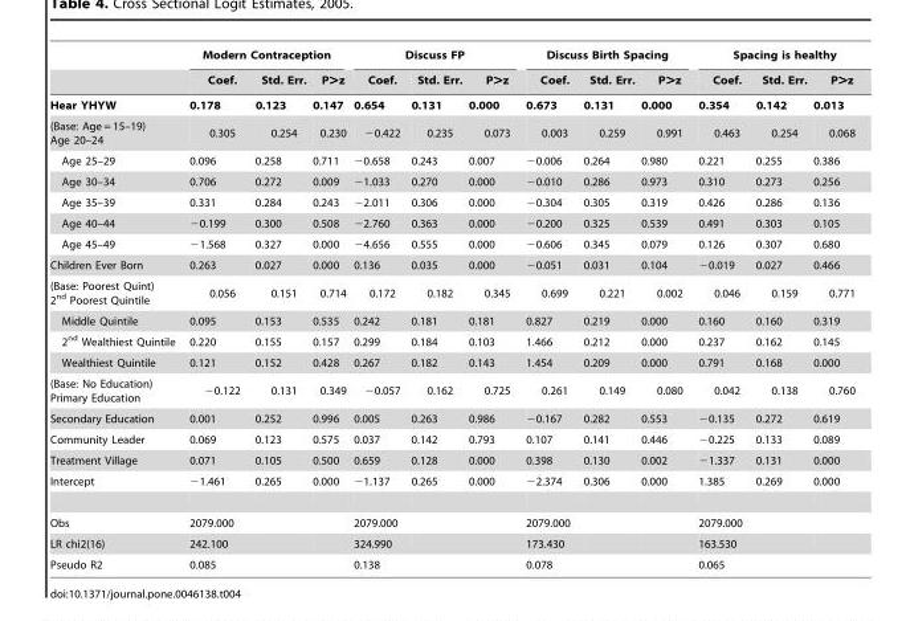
<table><thead><tr><td rowspan="2"></td><td colspan="3">Modern Contraception</td><td colspan="3">Discuss FP</td><td colspan="3">Discuss Birth Spacing</td><td colspan="3">Spacing is healthy</td></tr><tr><td>Coef.</td><td>Std. Err.</td><td>P&gt;z</td><td>Coef.</td><td>Std. Err.</td><td>P&gt;z</td><td>Coef.</td><td>Std. Err.</td><td>P&gt;z</td><td>Coef.</td><td>Std. Err.</td><td>P&gt;z</td></tr></thead><tbody><tr><td>Hear YHYW</td><td>0.178</td><td>0.123</td><td>0.147</td><td>0.654</td><td>0.131</td><td>0.000</td><td>0.673</td><td>0.131</td><td>0.000</td><td>0.354</td><td>0.142</td><td>0.013</td></tr><tr><td>(Base: Age = 15–19) Age 20–24</td><td>0.305</td><td>0.254</td><td>0.230</td><td>−0.422</td><td>0.235</td><td>0.073</td><td>0.003</td><td>0.259</td><td>0.991</td><td>0.463</td><td>0.254</td><td>0.068</td></tr><tr><td>Age 25–29</td><td>0.096</td><td>0.258</td><td>0.711</td><td>−0.658</td><td>0.243</td><td>0.007</td><td>−0.006</td><td>0.264</td><td>0.980</td><td>0.221</td><td>0.255</td><td>0.386</td></tr><tr><td>Age 30–34</td><td>0.706</td><td>0.272</td><td>0.009</td><td>−1.033</td><td>0.270</td><td>0.000</td><td>−0.010</td><td>0.286</td><td>0.973</td><td>0.310</td><td>0.273</td><td>0.256</td></tr><tr><td>Age 35–39</td><td>0.331</td><td>0.284</td><td>0.243</td><td>−2.011</td><td>0.306</td><td>0.000</td><td>−0.304</td><td>0.305</td><td>0.319</td><td>0.426</td><td>0.286</td><td>0.136</td></tr><tr><td>Age 40–44</td><td>−0.199</td><td>0.300</td><td>0.508</td><td>−2.760</td><td>0.363</td><td>0.000</td><td>−0.200</td><td>0.325</td><td>0.539</td><td>0.491</td><td>0.303</td><td>0.105</td></tr><tr><td>Age 45–49</td><td>−1.568</td><td>0.327</td><td>0.000</td><td>−4.656</td><td>0.555</td><td>0.000</td><td>−0.606</td><td>0.345</td><td>0.079</td><td>0.126</td><td>0.307</td><td>0.680</td></tr><tr><td>Children Ever Born</td><td>0.263</td><td>0.027</td><td>0.000</td><td>0.136</td><td>0.035</td><td>0.000</td><td>−0.051</td><td>0.031</td><td>0.104</td><td>−0.019</td><td>0.027</td><td>0.466</td></tr><tr><td>(Base: Poorest Quint) 2<sup>nd</sup> Poorest Quintile</td><td>0.056</td><td>0.151</td><td>0.714</td><td>0.172</td><td>0.182</td><td>0.345</td><td>0.699</td><td>0.221</td><td>0.002</td><td>0.046</td><td>0.159</td><td>0.771</td></tr><tr><td>Middle Quintile</td><td>0.095</td><td>0.153</td><td>0.535</td><td>0.242</td><td>0.181</td><td>0.181</td><td>0.827</td><td>0.219</td><td>0.000</td><td>0.160</td><td>0.160</td><td>0.319</td></tr><tr><td>2<sup>nd</sup> Wealthiest Quintile</td><td>0.220</td><td>0.155</td><td>0.157</td><td>0.299</td><td>0.184</td><td>0.103</td><td>1.466</td><td>0.212</td><td>0.000</td><td>0.237</td><td>0.162</td><td>0.145</td></tr><tr><td>Wealthiest Quintile</td><td>0.121</td><td>0.152</td><td>0.428</td><td>0.267</td><td>0.182</td><td>0.143</td><td>1.454</td><td>0.209</td><td>0.000</td><td>0.791</td><td>0.168</td><td>0.000</td></tr><tr><td>(Base: No Education) Primary Education</td><td>−0.122</td><td>0.131</td><td>0.349</td><td>−0.057</td><td>0.162</td><td>0.725</td><td>0.261</td><td>0.149</td><td>0.080</td><td>0.042</td><td>0.138</td><td>0.760</td></tr><tr><td>Secondary Education</td><td>0.001</td><td>0.252</td><td>0.996</td><td>0.005</td><td>0.263</td><td>0.986</td><td>−0.167</td><td>0.282</td><td>0.553</td><td>−0.135</td><td>0.272</td><td>0.619</td></tr><tr><td>Community Leader</td><td>0.069</td><td>0.123</td><td>0.575</td><td>0.037</td><td>0.142</td><td>0.793</td><td>0.107</td><td>0.141</td><td>0.446</td><td>−0.225</td><td>0.133</td><td>0.089</td></tr><tr><td>Treatment Village</td><td>0.071</td><td>0.105</td><td>0.500</td><td>0.659</td><td>0.128</td><td>0.000</td><td>0.398</td><td>0.130</td><td>0.002</td><td>−1.337</td><td>0.131</td><td>0.000</td></tr><tr><td>Intercept</td><td>−1.461</td><td>0.265</td><td>0.000</td><td>−1.137</td><td>0.265</td><td>0.000</td><td>−2.374</td><td>0.306</td><td>0.000</td><td>1.385</td><td>0.269</td><td>0.000</td></tr><tr><td>Obs</td><td>2079.000</td><td></td><td></td><td>2079.000</td><td></td><td></td><td>2079.000</td><td></td><td></td><td>2079.000</td><td></td><td></td></tr><tr><td>LR chi2(16)</td><td>242.100</td><td></td><td></td><td>324.990</td><td></td><td></td><td>173.430</td><td></td><td></td><td>163.530</td><td></td><td></td></tr><tr><td>Pseudo R2</td><td>0.085</td><td></td><td></td><td>0.138</td><td></td><td></td><td>0.078</td><td></td><td></td><td>0.065</td><td></td><td></td></tr></tbody></table>